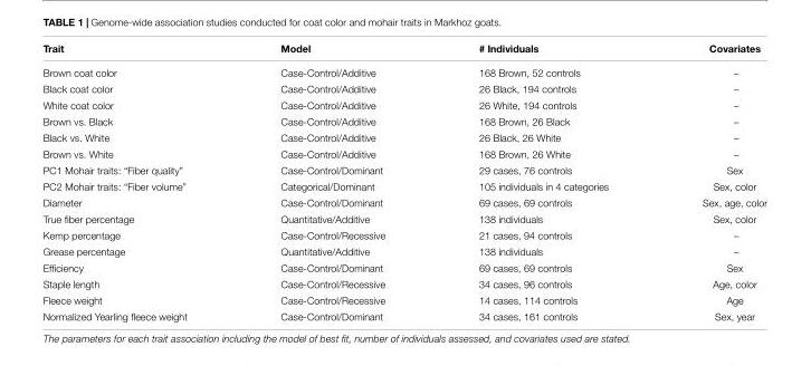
<table><thead><tr><td>Trait</td><td>Model</td><td># Individuals</td><td>Covariates</td></tr></thead><tbody><tr><td>Brown coat color</td><td>Case-Control/Additive</td><td>168 Brown, 52 controls</td><td>–</td></tr><tr><td>Black coat color</td><td>Case-Control/Additive</td><td>26 Black, 194 controls</td><td>–</td></tr><tr><td>White coat color</td><td>Case-Control/Additive</td><td>26 White, 194 controls</td><td>–</td></tr><tr><td>Brown vs. Black</td><td>Case-Control/Additive</td><td>168 Brown, 26 Black</td><td>–</td></tr><tr><td>Black vs. White</td><td>Case-Control/Additive</td><td>26 Black, 26 White</td><td>–</td></tr><tr><td>Brown vs. White</td><td>Case-Control/Additive</td><td>168 Brown, 26 White</td><td>–</td></tr><tr><td>PC1 Mohair traits: “Fiber quality”</td><td>Case-Control/Dominant</td><td>29 cases, 76 controls</td><td>Sex</td></tr><tr><td>PC2 Mohair traits: “Fiber volume”</td><td>Categorical/Dominant</td><td>105 individuals in 4 categories</td><td>Sex, color</td></tr><tr><td>Diameter</td><td>Case-Control/Dominant</td><td>69 cases, 69 controls</td><td>Sex, age, color</td></tr><tr><td>True fiber percentage</td><td>Quantitative/Additive</td><td>138 individuals</td><td>Sex, color</td></tr><tr><td>Kemp percentage</td><td>Case-Control/Recessive</td><td>21 cases, 94 controls</td><td>–</td></tr><tr><td>Grease percentage</td><td>Quantitative/Additive</td><td>138 individuals</td><td>–</td></tr><tr><td>Efficiency</td><td>Case-Control/Dominant</td><td>69 cases, 69 controls</td><td>Sex</td></tr><tr><td>Staple length</td><td>Case-Control/Recessive</td><td>34 cases, 96 controls</td><td>Age, color</td></tr><tr><td>Fleece weight</td><td>Case-Control/Recessive</td><td>14 cases, 114 controls</td><td>Age</td></tr><tr><td>Normalized Yearling fleece weight</td><td>Case-Control/Dominant</td><td>34 cases, 161 controls</td><td>Sex, year</td></tr></tbody></table>